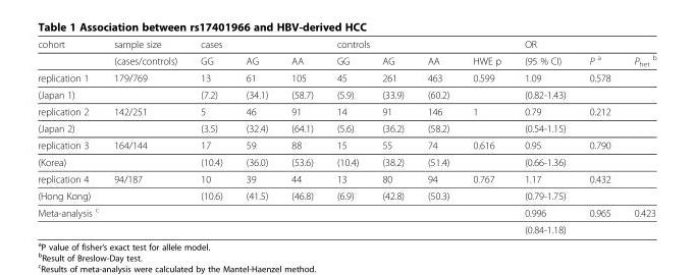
<table><thead><tr><td rowspan="2">cohort</td><td rowspan="2">sample size (cases/controls)</td><td colspan="3">cases</td><td colspan="4">controls</td><td rowspan="2">OR (95 % CI)</td><td rowspan="2">P <sup>a</sup></td><td rowspan="2">P<sub>het</sub> <sup>b</sup></td></tr><tr><td>GG</td><td>AG</td><td>AA</td><td>GG</td><td>AG</td><td>AA</td><td>HWE p</td></tr></thead><tbody><tr><td>replication 1</td><td>179/769</td><td>13</td><td>61</td><td>105</td><td>45</td><td>261</td><td>463</td><td>0.599</td><td>1.09</td><td>0.578</td><td></td></tr><tr><td>(Japan 1)</td><td></td><td>(7.2)</td><td>(34.1)</td><td>(58.7)</td><td>(5.9)</td><td>(33.9)</td><td>(60.2)</td><td></td><td>(0.82-1.43)</td><td></td><td></td></tr><tr><td>replication 2</td><td>142/251</td><td>5</td><td>46</td><td>91</td><td>14</td><td>91</td><td>146</td><td>1</td><td>0.79</td><td>0.212</td><td></td></tr><tr><td>(Japan 2)</td><td></td><td>(3.5)</td><td>(32.4)</td><td>(64.1)</td><td>(5.6)</td><td>(36.2)</td><td>(58.2)</td><td></td><td>(0.54-1.15)</td><td></td><td></td></tr><tr><td>replication 3</td><td>164/144</td><td>17</td><td>59</td><td>88</td><td>15</td><td>55</td><td>74</td><td>0.616</td><td>0.95</td><td>0.790</td><td></td></tr><tr><td>(Korea)</td><td></td><td>(10.4)</td><td>(36.0)</td><td>(53.6)</td><td>(10.4)</td><td>(38.2)</td><td>(51.4)</td><td></td><td>(0.66-1.36)</td><td></td><td></td></tr><tr><td>replication 4</td><td>94/187</td><td>10</td><td>39</td><td>44</td><td>13</td><td>80</td><td>94</td><td>0.767</td><td>1.17</td><td>0.432</td><td></td></tr><tr><td>(Hong Kong)</td><td></td><td>(10.6)</td><td>(41.5)</td><td>(46.8)</td><td>(6.9)</td><td>(42.8)</td><td>(50.3)</td><td></td><td>(0.79-1.75)</td><td></td><td></td></tr><tr><td rowspan="2" colspan="2">Meta-analysis <sup>c</sup></td><td></td><td></td><td></td><td></td><td></td><td></td><td></td><td>0.996</td><td>0.965</td><td>0.423</td></tr><tr><td></td><td></td><td></td><td></td><td></td><td></td><td></td><td>(0.84-1.18)</td><td></td><td></td></tr></tbody></table>